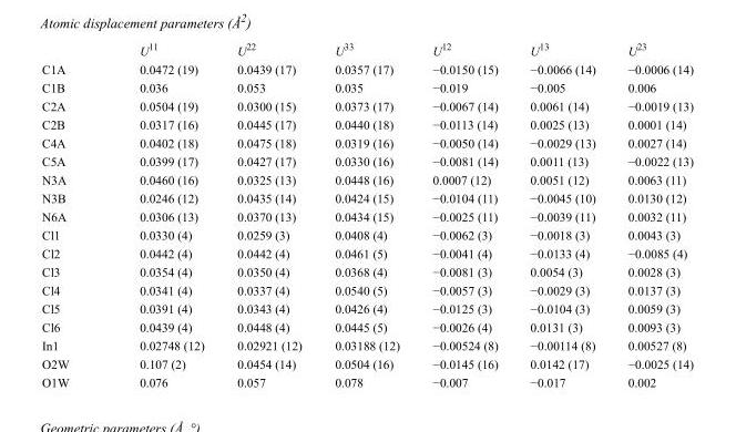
<table><thead><tr><td></td><td>U<sup>11</sup></td><td>U<sup>22</sup></td><td>U<sup>33</sup></td><td>U<sup>12</sup></td><td>U<sup>13</sup></td><td>U<sup>23</sup></td></tr></thead><tbody><tr><td>C1A</td><td>0.0472 (19)</td><td>0.0439 (17)</td><td>0.0357 (17)</td><td>−0.0150 (15)</td><td>−0.0066 (14)</td><td>−0.0006 (14)</td></tr><tr><td>C1B</td><td>0.036</td><td>0.053</td><td>0.035</td><td>−0.019</td><td>−0.005</td><td>0.006</td></tr><tr><td>C2A</td><td>0.0504 (19)</td><td>0.0300 (15)</td><td>0.0373 (17)</td><td>−0.0067 (14)</td><td>0.0061 (14)</td><td>−0.0019 (13)</td></tr><tr><td>C2B</td><td>0.0317 (16)</td><td>0.0445 (17)</td><td>0.0440 (18)</td><td>−0.0113 (14)</td><td>0.0025 (13)</td><td>0.0001 (14)</td></tr><tr><td>C4A</td><td>0.0402 (18)</td><td>0.0475 (18)</td><td>0.0319 (16)</td><td>−0.0050 (14)</td><td>−0.0029 (13)</td><td>0.0027 (14)</td></tr><tr><td>C5A</td><td>0.0399 (17)</td><td>0.0427 (17)</td><td>0.0330 (16)</td><td>−0.0081 (14)</td><td>0.0011 (13)</td><td>−0.0022 (13)</td></tr><tr><td>N3A</td><td>0.0460 (16)</td><td>0.0325 (13)</td><td>0.0448 (16)</td><td>0.0007 (12)</td><td>0.0051 (12)</td><td>0.0063 (11)</td></tr><tr><td>N3B</td><td>0.0246 (12)</td><td>0.0435 (14)</td><td>0.0424 (15)</td><td>−0.0104 (11)</td><td>−0.0045 (10)</td><td>0.0130 (12)</td></tr><tr><td>N6A</td><td>0.0306 (13)</td><td>0.0370 (13)</td><td>0.0434 (15)</td><td>−0.0025 (11)</td><td>−0.0039 (11)</td><td>0.0032 (11)</td></tr><tr><td>Cl1</td><td>0.0330 (4)</td><td>0.0259 (3)</td><td>0.0408 (4)</td><td>−0.0062 (3)</td><td>−0.0018 (3)</td><td>0.0043 (3)</td></tr><tr><td>Cl2</td><td>0.0442 (4)</td><td>0.0442 (4)</td><td>0.0461 (5)</td><td>−0.0041 (4)</td><td>−0.0133 (4)</td><td>−0.0085 (4)</td></tr><tr><td>Cl3</td><td>0.0354 (4)</td><td>0.0350 (4)</td><td>0.0368 (4)</td><td>−0.0081 (3)</td><td>0.0054 (3)</td><td>0.0028 (3)</td></tr><tr><td>Cl4</td><td>0.0341 (4)</td><td>0.0337 (4)</td><td>0.0540 (5)</td><td>−0.0057 (3)</td><td>−0.0029 (3)</td><td>0.0137 (3)</td></tr><tr><td>Cl5</td><td>0.0391 (4)</td><td>0.0343 (4)</td><td>0.0426 (4)</td><td>−0.0125 (3)</td><td>−0.0104 (3)</td><td>0.0059 (3)</td></tr><tr><td>Cl6</td><td>0.0439 (4)</td><td>0.0448 (4)</td><td>0.0445 (5)</td><td>−0.0026 (4)</td><td>0.0131 (3)</td><td>0.0093 (3)</td></tr><tr><td>In1</td><td>0.02748 (12)</td><td>0.02921 (12)</td><td>0.03188 (12)</td><td>−0.00524 (8)</td><td>−0.00114 (8)</td><td>0.00527 (8)</td></tr><tr><td>O2W</td><td>0.107 (2)</td><td>0.0454 (14)</td><td>0.0504 (16)</td><td>−0.0145 (16)</td><td>0.0142 (17)</td><td>−0.0025 (14)</td></tr><tr><td>O1W</td><td>0.076</td><td>0.057</td><td>0.078</td><td>−0.007</td><td>−0.017</td><td>0.002</td></tr></tbody></table>